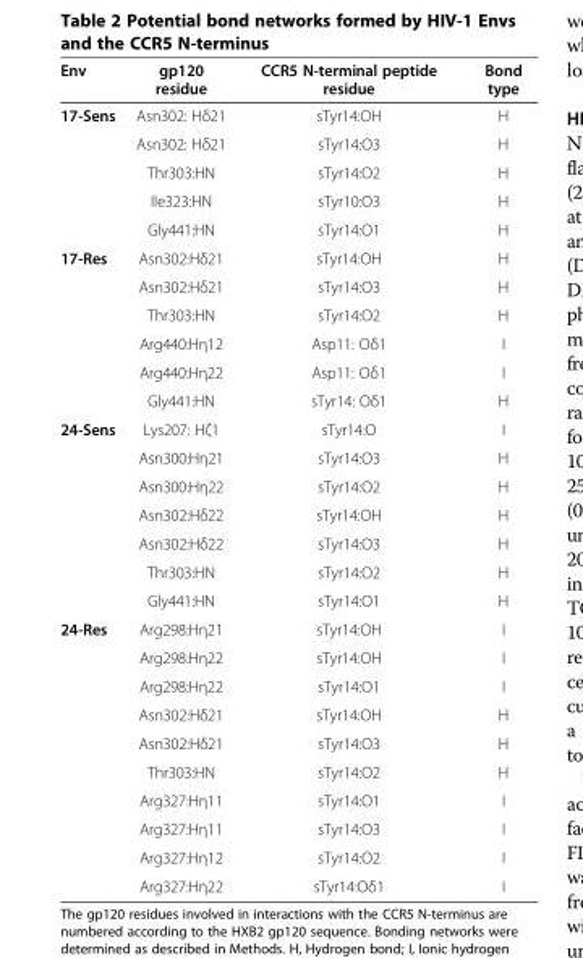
<table><thead><tr><td>Env</td><td>gp120 residue</td><td>CCR5 N-terminal peptide residue</td><td>Bond type</td></tr></thead><tbody><tr><td rowspan="5">17-Sens</td><td>Asn302: Hδ21</td><td>sTyr14:OH</td><td>H</td></tr><tr><td>Asn302: Hδ21</td><td>sTyr14:O3</td><td>H</td></tr><tr><td>Thr303:HN</td><td>sTyr14:O2</td><td>H</td></tr><tr><td>Ile323:HN</td><td>sTyr10:O3</td><td>H</td></tr><tr><td>Gly441:HN</td><td>sTyr14:O1</td><td>H</td></tr><tr><td rowspan="6">17-Res</td><td>Asn302:Hδ21</td><td>sTyr14:OH</td><td>H</td></tr><tr><td>Asn302:Hδ21</td><td>sTyr14:O3</td><td>H</td></tr><tr><td>Thr303:HN</td><td>sTyr14:O2</td><td>H</td></tr><tr><td>Arg440:Hη12</td><td>Asp11: Oδ1</td><td>I</td></tr><tr><td>Arg440:Hη22</td><td>Asp11: Oδ1</td><td>I</td></tr><tr><td>Gly441:HN</td><td>sTyr14: Oδ1</td><td>H</td></tr><tr><td rowspan="7">24-Sens</td><td>Lys207: Hζ1</td><td>sTyr14:O</td><td>I</td></tr><tr><td>Asn300:Hη21</td><td>sTyr14:O3</td><td>H</td></tr><tr><td>Asn300:Hη22</td><td>sTyr14:O2</td><td>H</td></tr><tr><td>Asn302:Hδ22</td><td>sTyr14:OH</td><td>H</td></tr><tr><td>Asn302:Hδ22</td><td>sTyr14:O3</td><td>H</td></tr><tr><td>Thr303:HN</td><td>sTyr14:O2</td><td>H</td></tr><tr><td>Gly441:HN</td><td>sTyr14:O1</td><td>H</td></tr><tr><td rowspan="10">24-Res</td><td>Arg298:Hη21</td><td>sTyr14:OH</td><td>I</td></tr><tr><td>Arg298:Hη22</td><td>sTyr14:OH</td><td>I</td></tr><tr><td>Arg298:Hη22</td><td>sTyr14:O1</td><td>I</td></tr><tr><td>Asn302:Hδ21</td><td>sTyr14:OH</td><td>H</td></tr><tr><td>Asn302:Hδ21</td><td>sTyr14:O3</td><td>H</td></tr><tr><td>Thr303:HN</td><td>sTyr14:O2</td><td>H</td></tr><tr><td>Arg327:Hη11</td><td>sTyr14:O1</td><td>I</td></tr><tr><td>Arg327:Hη11</td><td>sTyr14:O3</td><td>I</td></tr><tr><td>Arg327:Hη12</td><td>sTyr14:O2</td><td>I</td></tr><tr><td>Arg327:Hη22</td><td>sTyr14:Oδ1</td><td>I</td></tr></tbody></table>